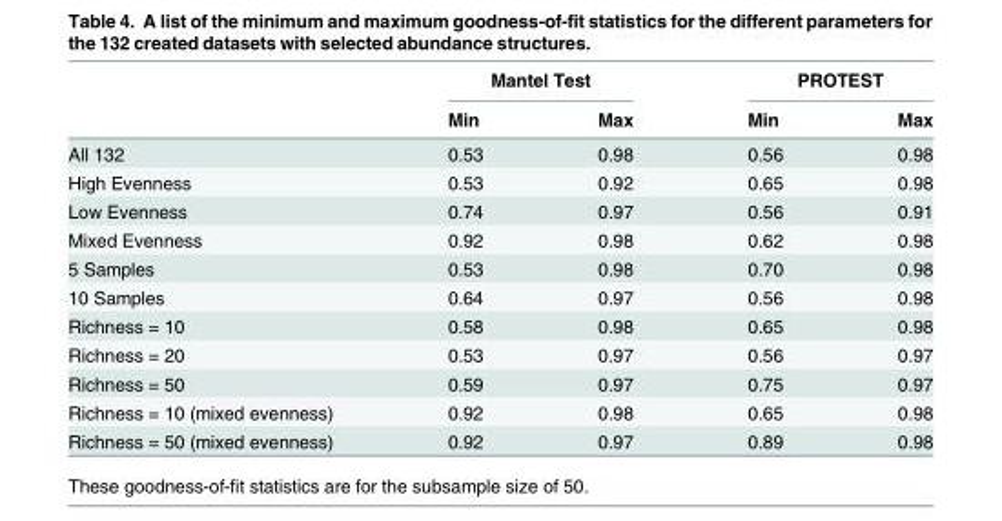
<table><thead><tr><td rowspan="2"></td><td colspan="2">Mantel Test</td><td colspan="2">PROTEST</td></tr><tr><td>Min</td><td>Max</td><td>Min</td><td>Max</td></tr></thead><tbody><tr><td>All 132</td><td>0.53</td><td>0.98</td><td>0.56</td><td>0.98</td></tr><tr><td>High Evenness</td><td>0.53</td><td>0.92</td><td>0.65</td><td>0.98</td></tr><tr><td>Low Evenness</td><td>0.74</td><td>0.97</td><td>0.56</td><td>0.91</td></tr><tr><td>Mixed Evenness</td><td>0.92</td><td>0.98</td><td>0.62</td><td>0.98</td></tr><tr><td>5 Samples</td><td>0.53</td><td>0.98</td><td>0.70</td><td>0.98</td></tr><tr><td>10 Samples</td><td>0.64</td><td>0.97</td><td>0.56</td><td>0.98</td></tr><tr><td>Richness = 10</td><td>0.58</td><td>0.98</td><td>0.65</td><td>0.98</td></tr><tr><td>Richness = 20</td><td>0.53</td><td>0.97</td><td>0.56</td><td>0.97</td></tr><tr><td>Richness = 50</td><td>0.59</td><td>0.97</td><td>0.75</td><td>0.97</td></tr><tr><td>Richness = 10 (mixed evenness)</td><td>0.92</td><td>0.98</td><td>0.65</td><td>0.98</td></tr><tr><td>Richness = 50 (mixed evenness)</td><td>0.92</td><td>0.97</td><td>0.89</td><td>0.98</td></tr></tbody></table>